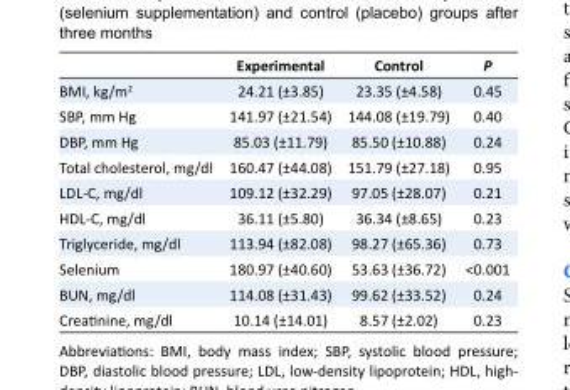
<table><thead><tr><td></td><td>Experimental</td><td>Control</td><td>P</td></tr></thead><tbody><tr><td>BMI, kg/m<sup>2</sup></td><td>24.21 (±3.85)</td><td>23.35 (±4.58)</td><td>0.45</td></tr><tr><td>SBP, mm Hg</td><td>141.97 (±21.54)</td><td>144.08 (±19.79)</td><td>0.40</td></tr><tr><td>DBP, mm Hg</td><td>85.03 (±11.79)</td><td>85.50 (±10.88)</td><td>0.24</td></tr><tr><td>Total cholesterol, mg/dl</td><td>160.47 (±44.08)</td><td>151.79 (±27.18)</td><td>0.95</td></tr><tr><td>LDL-C, mg/dl</td><td>109.12 (±32.29)</td><td>97.05 (±28.07)</td><td>0.21</td></tr><tr><td>HDL-C, mg/dl</td><td>36.11 (±5.80)</td><td>36.34 (±8.65)</td><td>0.23</td></tr><tr><td>Triglyceride, mg/dl</td><td>113.94 (±82.08)</td><td>98.27 (±65.36)</td><td>0.73</td></tr><tr><td>Selenium</td><td>180.97 (±40.60)</td><td>53.63 (±36.72)</td><td>&lt;0.001</td></tr><tr><td>BUN, mg/dl</td><td>114.08 (±31.43)</td><td>99.62 (±33.52)</td><td>0.24</td></tr><tr><td>Creatinine, mg/dl</td><td>10.14 (±14.01)</td><td>8.57 (±2.02)</td><td>0.23</td></tr></tbody></table>